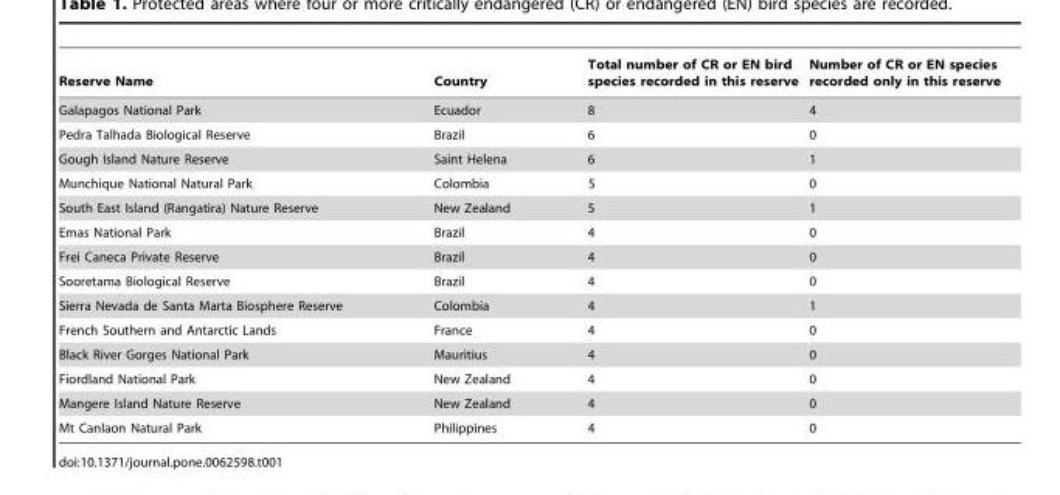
<table><thead><tr><td>Reserve Name</td><td>Country</td><td>Total number of CR or EN bird species recorded in this reserve</td><td>Number of CR or EN species recorded only in this reserve</td></tr></thead><tbody><tr><td>Galapagos National Park</td><td>Ecuador</td><td>8</td><td>4</td></tr><tr><td>Pedra Talhada Biological Reserve</td><td>Brazil</td><td>6</td><td>0</td></tr><tr><td>Gough Island Nature Reserve</td><td>Saint Helena</td><td>6</td><td>1</td></tr><tr><td>Munchique National Natural Park</td><td>Colombia</td><td>5</td><td>0</td></tr><tr><td>South East Island (Rangatira) Nature Reserve</td><td>New Zealand</td><td>5</td><td>1</td></tr><tr><td>Emas National Park</td><td>Brazil</td><td>4</td><td>0</td></tr><tr><td>Frei Caneca Private Reserve</td><td>Brazil</td><td>4</td><td>0</td></tr><tr><td>Sooretama Biological Reserve</td><td>Brazil</td><td>4</td><td>0</td></tr><tr><td>Sierra Nevada de Santa Marta Biosphere Reserve</td><td>Colombia</td><td>4</td><td>1</td></tr><tr><td>French Southern and Antarctic Lands</td><td>France</td><td>4</td><td>0</td></tr><tr><td>Black River Gorges National Park</td><td>Mauritius</td><td>4</td><td>0</td></tr><tr><td>Fiordland National Park</td><td>New Zealand</td><td>4</td><td>0</td></tr><tr><td>Mangere Island Nature Reserve</td><td>New Zealand</td><td>4</td><td>0</td></tr><tr><td>Mt Canlaon Natural Park</td><td>Philippines</td><td>4</td><td>0</td></tr></tbody></table>